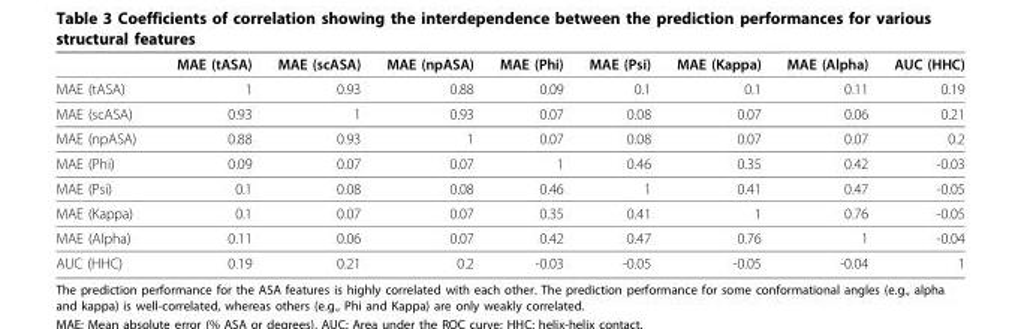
<table><thead><tr><td></td><td>MAE (tASA)</td><td>MAE (scASA)</td><td>MAE (npASA)</td><td>MAE (Phi)</td><td>MAE (Psi)</td><td>MAE (Kappa)</td><td>MAE (Alpha)</td><td>AUC (HHC)</td></tr></thead><tbody><tr><td>MAE (tASA)</td><td>1</td><td>0.93</td><td>0.88</td><td>0.09</td><td>0.1</td><td>0.1</td><td>0.11</td><td>0.19</td></tr><tr><td>MAE (scASA)</td><td>0.93</td><td>1</td><td>0.93</td><td>0.07</td><td>0.08</td><td>0.07</td><td>0.06</td><td>0.21</td></tr><tr><td>MAE (npASA)</td><td>0.88</td><td>0.93</td><td>1</td><td>0.07</td><td>0.08</td><td>0.07</td><td>0.07</td><td>0.2</td></tr><tr><td>MAE (Phi)</td><td>0.09</td><td>0.07</td><td>0.07</td><td>1</td><td>0.46</td><td>0.35</td><td>0.42</td><td>-0.03</td></tr><tr><td>MAE (Psi)</td><td>0.1</td><td>0.08</td><td>0.08</td><td>0.46</td><td>1</td><td>0.41</td><td>0.47</td><td>-0.05</td></tr><tr><td>MAE (Kappa)</td><td>0.1</td><td>0.07</td><td>0.07</td><td>0.35</td><td>0.41</td><td>1</td><td>0.76</td><td>-0.05</td></tr><tr><td>MAE (Alpha)</td><td>0.11</td><td>0.06</td><td>0.07</td><td>0.42</td><td>0.47</td><td>0.76</td><td>1</td><td>-0.04</td></tr><tr><td>AUC (HHC)</td><td>0.19</td><td>0.21</td><td>0.2</td><td>-0.03</td><td>-0.05</td><td>-0.05</td><td>-0.04</td><td>1</td></tr></tbody></table>